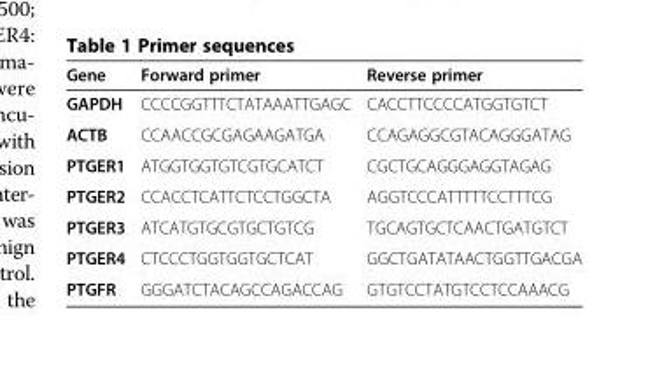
<table><thead><tr><td>Gene</td><td>Forward primer</td><td>Reverse primer</td></tr></thead><tbody><tr><td>GAPDH</td><td>CCCCGGTTTCTATAAATTGAGC</td><td>CACCTTCCCCATGGTGTCT</td></tr><tr><td>ACTB</td><td>CCAACCGCGAGAAGATGA</td><td>CCAGAGGCGTACAGGGATAG</td></tr><tr><td>PTGER1</td><td>ATGGTGGTGTCGTGCATCT</td><td>CGCTGCAGGGAGGTAGAG</td></tr><tr><td>PTGER2</td><td>CCACCTCATTCTCCTGGCTA</td><td>AGGTCCCATTTTTCCTTTCG</td></tr><tr><td>PTGER3</td><td>ATCATGTGCGTGCTGTCG</td><td>TGCAGTGCTCAACTGATGTCT</td></tr><tr><td>PTGER4</td><td>CTCCCTGGTGGTGCTCAT</td><td>GGCTGATATAACTGGTTGACGA</td></tr><tr><td>PTGFR</td><td>GGGATCTACAGCCAGACCAG</td><td>GTGTCCTATGTCCTCCAAACG</td></tr></tbody></table>